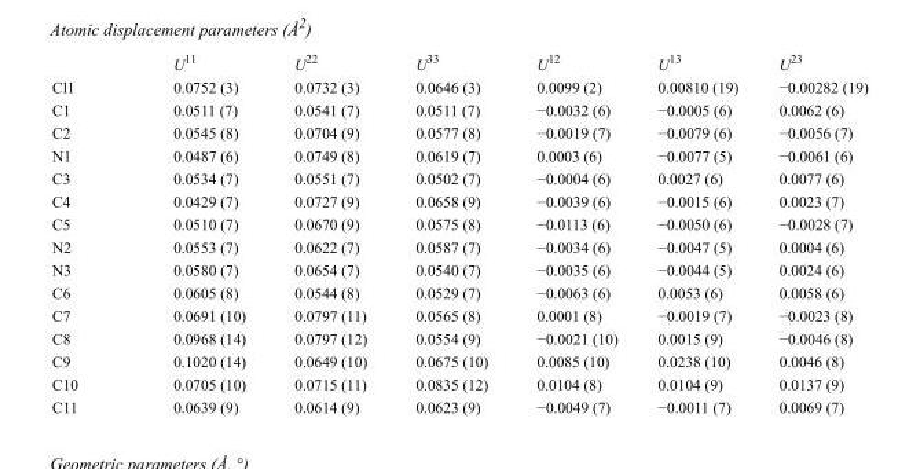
<table><thead><tr><td></td><td>U<sup>11</sup></td><td>U<sup>22</sup></td><td>U<sup>33</sup></td><td>U<sup>12</sup></td><td>U<sup>13</sup></td><td>U<sup>23</sup></td></tr></thead><tbody><tr><td>Cl1</td><td>0.0752 (3)</td><td>0.0732 (3)</td><td>0.0646 (3)</td><td>0.0099 (2)</td><td>0.00810 (19)</td><td>−0.00282 (19)</td></tr><tr><td>C1</td><td>0.0511 (7)</td><td>0.0541 (7)</td><td>0.0511 (7)</td><td>−0.0032 (6)</td><td>−0.0005 (6)</td><td>0.0062 (6)</td></tr><tr><td>C2</td><td>0.0545 (8)</td><td>0.0704 (9)</td><td>0.0577 (8)</td><td>−0.0019 (7)</td><td>−0.0079 (6)</td><td>−0.0056 (7)</td></tr><tr><td>N1</td><td>0.0487 (6)</td><td>0.0749 (8)</td><td>0.0619 (7)</td><td>0.0003 (6)</td><td>−0.0077 (5)</td><td>−0.0061 (6)</td></tr><tr><td>C3</td><td>0.0534 (7)</td><td>0.0551 (7)</td><td>0.0502 (7)</td><td>−0.0004 (6)</td><td>0.0027 (6)</td><td>0.0077 (6)</td></tr><tr><td>C4</td><td>0.0429 (7)</td><td>0.0727 (9)</td><td>0.0658 (9)</td><td>−0.0039 (6)</td><td>−0.0015 (6)</td><td>0.0023 (7)</td></tr><tr><td>C5</td><td>0.0510 (7)</td><td>0.0670 (9)</td><td>0.0575 (8)</td><td>−0.0113 (6)</td><td>−0.0050 (6)</td><td>−0.0028 (7)</td></tr><tr><td>N2</td><td>0.0553 (7)</td><td>0.0622 (7)</td><td>0.0587 (7)</td><td>−0.0034 (6)</td><td>−0.0047 (5)</td><td>0.0004 (6)</td></tr><tr><td>N3</td><td>0.0580 (7)</td><td>0.0654 (7)</td><td>0.0540 (7)</td><td>−0.0035 (6)</td><td>−0.0044 (5)</td><td>0.0024 (6)</td></tr><tr><td>C6</td><td>0.0605 (8)</td><td>0.0544 (8)</td><td>0.0529 (7)</td><td>−0.0063 (6)</td><td>0.0053 (6)</td><td>0.0058 (6)</td></tr><tr><td>C7</td><td>0.0691 (10)</td><td>0.0797 (11)</td><td>0.0565 (8)</td><td>0.0001 (8)</td><td>−0.0019 (7)</td><td>−0.0023 (8)</td></tr><tr><td>C8</td><td>0.0968 (14)</td><td>0.0797 (12)</td><td>0.0554 (9)</td><td>−0.0021 (10)</td><td>0.0015 (9)</td><td>−0.0046 (8)</td></tr><tr><td>C9</td><td>0.1020 (14)</td><td>0.0649 (10)</td><td>0.0675 (10)</td><td>0.0085 (10)</td><td>0.0238 (10)</td><td>0.0046 (8)</td></tr><tr><td>C10</td><td>0.0705 (10)</td><td>0.0715 (11)</td><td>0.0835 (12)</td><td>0.0104 (8)</td><td>0.0104 (9)</td><td>0.0137 (9)</td></tr><tr><td>C11</td><td>0.0639 (9)</td><td>0.0614 (9)</td><td>0.0623 (9)</td><td>−0.0049 (7)</td><td>−0.0011 (7)</td><td>0.0069 (7)</td></tr></tbody></table>